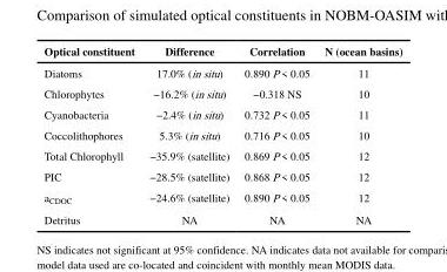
<table><thead><tr><td>Optical constituent</td><td>Difference</td><td>Correlation</td><td>N (ocean basins)</td></tr></thead><tbody><tr><td>Diatoms</td><td>17.0% (in situ)</td><td>0.890 P &lt; 0.05</td><td>11</td></tr><tr><td>Chlorophytes</td><td>−16.2% (in situ)</td><td>−0.318 NS</td><td>10</td></tr><tr><td>Cyanobacteria</td><td>−2.4% (in situ)</td><td>0.732 P &lt; 0.05</td><td>11</td></tr><tr><td>Coccolithophores</td><td>5.3% (in situ)</td><td>0.716 P &lt; 0.05</td><td>10</td></tr><tr><td>Total Chlorophyll</td><td>−35.9% (satellite)</td><td>0.869 P &lt; 0.05</td><td>12</td></tr><tr><td>PIC</td><td>−28.5% (satellite)</td><td>0.868 P &lt; 0.05</td><td>12</td></tr><tr><td>a<sub>CDOC</sub></td><td>−24.6% (satellite)</td><td>0.890 P &lt; 0.05</td><td>12</td></tr><tr><td>Detritus</td><td>NA</td><td>NA</td><td>NA</td></tr></tbody></table>